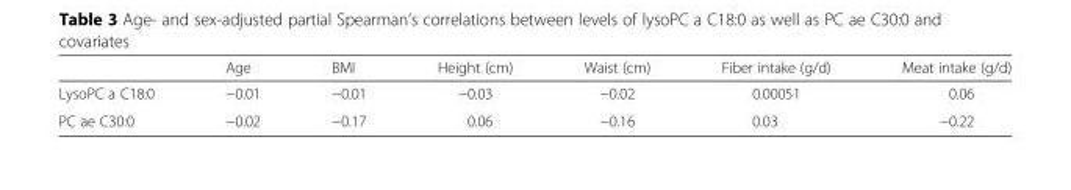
<table><thead><tr><td></td><td>Age</td><td>BMI</td><td>Height (cm)</td><td>Waist (cm)</td><td>Fiber intake (g/d)</td><td>Meat intake (g/d)</td></tr></thead><tbody><tr><td>LysoPC a C18:0</td><td>−0.01</td><td>−0.01</td><td>−0.03</td><td>−0.02</td><td>0.00051</td><td>0.06</td></tr><tr><td>PC ae C30:0</td><td>−0.02</td><td>−0.17</td><td>0.06</td><td>−0.16</td><td>0.03</td><td>−0.22</td></tr></tbody></table>